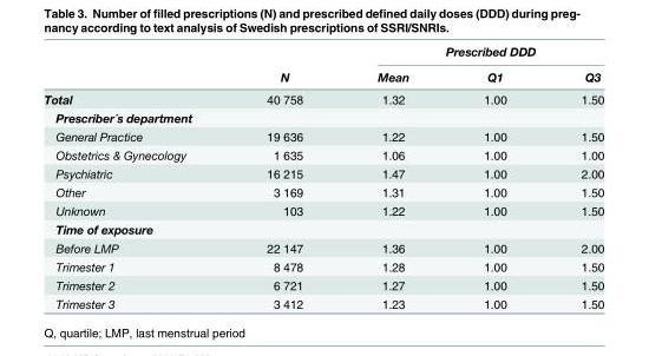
<table><thead><tr><td rowspan="2"></td><td rowspan="2">N</td><td colspan="3">Prescribed DDD</td></tr><tr><td>Mean</td><td>Q1</td><td>Q3</td></tr></thead><tbody><tr><td>Total</td><td>40 758</td><td>1.32</td><td>1.00</td><td>1.50</td></tr><tr><td colspan="5">Prescriber´s department</td></tr><tr><td>General Practice</td><td>19 636</td><td>1.22</td><td>1.00</td><td>1.50</td></tr><tr><td>Obstetrics &amp; Gynecology</td><td>1 635</td><td>1.06</td><td>1.00</td><td>1.00</td></tr><tr><td>Psychiatric</td><td>16 215</td><td>1.47</td><td>1.00</td><td>2.00</td></tr><tr><td>Other</td><td>3 169</td><td>1.31</td><td>1.00</td><td>1.50</td></tr><tr><td>Unknown</td><td>103</td><td>1.22</td><td>1.00</td><td>1.50</td></tr><tr><td colspan="5">Time of exposure</td></tr><tr><td>Before LMP</td><td>22 147</td><td>1.36</td><td>1.00</td><td>2.00</td></tr><tr><td>Trimester 1</td><td>8 478</td><td>1.28</td><td>1.00</td><td>1.50</td></tr><tr><td>Trimester 2</td><td>6 721</td><td>1.27</td><td>1.00</td><td>1.50</td></tr><tr><td>Trimester 3</td><td>3 412</td><td>1.23</td><td>1.00</td><td>1.50</td></tr></tbody></table>